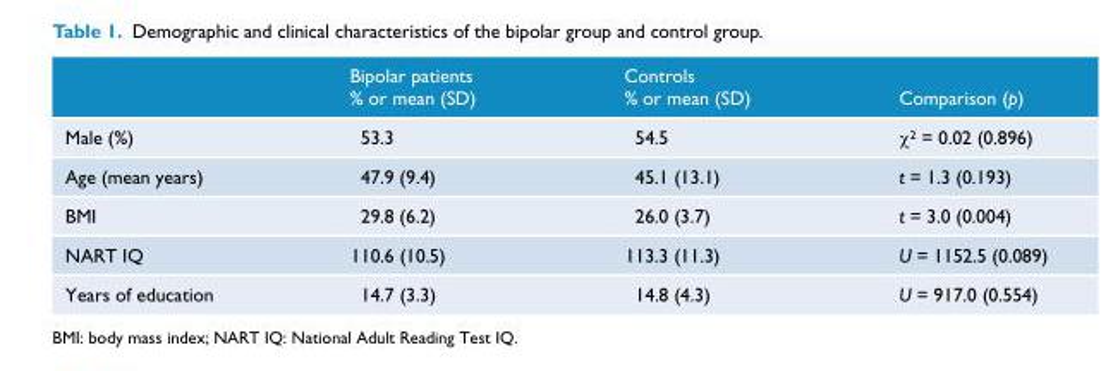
<table><thead><tr><td></td><td>Bipolar patients % or mean (SD)</td><td>Controls % or mean (SD)</td><td>Comparison (p)</td></tr></thead><tbody><tr><td>Male (%)</td><td>53.3</td><td>54.5</td><td>χ<sup>2</sup> = 0.02 (0.896)</td></tr><tr><td>Age (mean years)</td><td>47.9 (9.4)</td><td>45.1 (13.1)</td><td>t = 1.3 (0.193)</td></tr><tr><td>BMI</td><td>29.8 (6.2)</td><td>26.0 (3.7)</td><td>t = 3.0 (0.004)</td></tr><tr><td>NART IQ</td><td>110.6 (10.5)</td><td>113.3 (11.3)</td><td>U = 1152.5 (0.089)</td></tr><tr><td>Years of education</td><td>14.7 (3.3)</td><td>14.8 (4.3)</td><td>U = 917.0 (0.554)</td></tr></tbody></table>